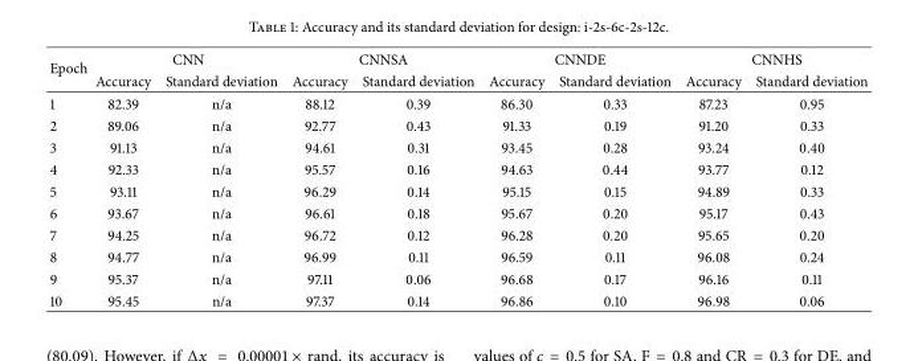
<table><thead><tr><td rowspan="2">Epoch</td><td colspan="2">CNN</td><td colspan="2">CNNSA</td><td colspan="2">CNNDE</td><td colspan="2">CNNHS</td></tr><tr><td>Accuracy</td><td>Standard deviation</td><td>Accuracy</td><td>Standard deviation</td><td>Accuracy</td><td>Standard deviation</td><td>Accuracy</td><td>Standard deviation</td></tr></thead><tbody><tr><td>1</td><td>82.39</td><td>n/a</td><td>88.12</td><td>0.39</td><td>86.30</td><td>0.33</td><td>87.23</td><td>0.95</td></tr><tr><td>2</td><td>89.06</td><td>n/a</td><td>92.77</td><td>0.43</td><td>91.33</td><td>0.19</td><td>91.20</td><td>0.33</td></tr><tr><td>3</td><td>91.13</td><td>n/a</td><td>94.61</td><td>0.31</td><td>93.45</td><td>0.28</td><td>93.24</td><td>0.40</td></tr><tr><td>4</td><td>92.33</td><td>n/a</td><td>95.57</td><td>0.16</td><td>94.63</td><td>0.44</td><td>93.77</td><td>0.12</td></tr><tr><td>5</td><td>93.11</td><td>n/a</td><td>96.29</td><td>0.14</td><td>95.15</td><td>0.15</td><td>94.89</td><td>0.33</td></tr><tr><td>6</td><td>93.67</td><td>n/a</td><td>96.61</td><td>0.18</td><td>95.67</td><td>0.20</td><td>95.17</td><td>0.43</td></tr><tr><td>7</td><td>94.25</td><td>n/a</td><td>96.72</td><td>0.12</td><td>96.28</td><td>0.20</td><td>95.65</td><td>0.20</td></tr><tr><td>8</td><td>94.77</td><td>n/a</td><td>96.99</td><td>0.11</td><td>96.59</td><td>0.11</td><td>96.08</td><td>0.24</td></tr><tr><td>9</td><td>95.37</td><td>n/a</td><td>97.11</td><td>0.06</td><td>96.68</td><td>0.17</td><td>96.16</td><td>0.11</td></tr><tr><td>10</td><td>95.45</td><td>n/a</td><td>97.37</td><td>0.14</td><td>96.86</td><td>0.10</td><td>96.98</td><td>0.06</td></tr></tbody></table>